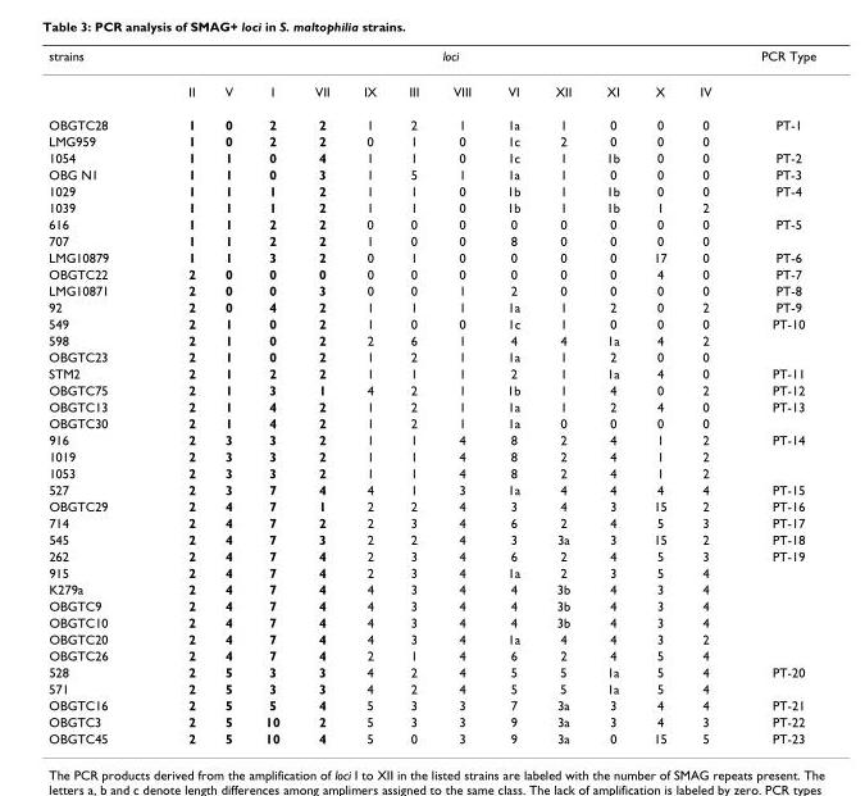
<table><thead><tr><td rowspan="2">strains</td><td colspan="12">loci</td><td rowspan="2">PCR Type</td></tr><tr><td>II</td><td>V</td><td>I</td><td>VII</td><td>IX</td><td>III</td><td>VIII</td><td>VI</td><td>XII</td><td>XI</td><td>X</td><td>IV</td></tr></thead><tbody><tr><td>OBGTC28</td><td>1</td><td>0</td><td>2</td><td>2</td><td>1</td><td>2</td><td>1</td><td>1a</td><td>1</td><td>0</td><td>0</td><td>0</td><td>PT-1</td></tr><tr><td>LMG959</td><td>1</td><td>0</td><td>2</td><td>2</td><td>0</td><td>1</td><td>0</td><td>1c</td><td>2</td><td>0</td><td>0</td><td>0</td><td></td></tr><tr><td>1054</td><td>1</td><td>1</td><td>0</td><td>4</td><td>1</td><td>1</td><td>0</td><td>1c</td><td>1</td><td>1b</td><td>0</td><td>0</td><td>PT-2</td></tr><tr><td>OBG N1</td><td>1</td><td>1</td><td>0</td><td>3</td><td>1</td><td>5</td><td>1</td><td>1a</td><td>1</td><td>0</td><td>0</td><td>0</td><td>PT-3</td></tr><tr><td>1029</td><td>1</td><td>1</td><td>1</td><td>2</td><td>1</td><td>1</td><td>0</td><td>1b</td><td>1</td><td>1b</td><td>0</td><td>0</td><td>PT-4</td></tr><tr><td>1039</td><td>1</td><td>1</td><td>1</td><td>2</td><td>1</td><td>1</td><td>0</td><td>1b</td><td>1</td><td>1b</td><td>1</td><td>2</td><td></td></tr><tr><td>616</td><td>1</td><td>1</td><td>2</td><td>2</td><td>0</td><td>0</td><td>0</td><td>0</td><td>0</td><td>0</td><td>0</td><td>0</td><td>PT-5</td></tr><tr><td>707</td><td>1</td><td>1</td><td>2</td><td>2</td><td>1</td><td>0</td><td>0</td><td>8</td><td>0</td><td>0</td><td>0</td><td>0</td><td></td></tr><tr><td>LMG10879</td><td>1</td><td>1</td><td>3</td><td>2</td><td>0</td><td>1</td><td>0</td><td>0</td><td>0</td><td>0</td><td>17</td><td>0</td><td>PT-6</td></tr><tr><td>OBGTC22</td><td>2</td><td>0</td><td>0</td><td>0</td><td>0</td><td>0</td><td>0</td><td>0</td><td>0</td><td>0</td><td>4</td><td>0</td><td>PT-7</td></tr><tr><td>LMG10871</td><td>2</td><td>0</td><td>0</td><td>3</td><td>0</td><td>0</td><td>1</td><td>2</td><td>0</td><td>0</td><td>0</td><td>0</td><td>PT-8</td></tr><tr><td>92</td><td>2</td><td>0</td><td>4</td><td>2</td><td>1</td><td>1</td><td>1</td><td>1a</td><td>1</td><td>2</td><td>0</td><td>2</td><td>PT-9</td></tr><tr><td>549</td><td>2</td><td>1</td><td>0</td><td>2</td><td>1</td><td>0</td><td>0</td><td>1c</td><td>1</td><td>0</td><td>0</td><td>0</td><td>PT-10</td></tr><tr><td>598</td><td>2</td><td>1</td><td>0</td><td>2</td><td>2</td><td>6</td><td>1</td><td>4</td><td>4</td><td>1a</td><td>4</td><td>2</td><td></td></tr><tr><td>OBGTC23</td><td>2</td><td>1</td><td>0</td><td>2</td><td>1</td><td>2</td><td>1</td><td>1a</td><td>1</td><td>2</td><td>0</td><td>0</td><td></td></tr><tr><td>STM2</td><td>2</td><td>1</td><td>2</td><td>2</td><td>1</td><td>1</td><td>1</td><td>2</td><td>1</td><td>1a</td><td>4</td><td>0</td><td>PT-11</td></tr><tr><td>OBGTC75</td><td>2</td><td>1</td><td>3</td><td>1</td><td>4</td><td>2</td><td>1</td><td>1b</td><td>1</td><td>4</td><td>0</td><td>2</td><td>PT-12</td></tr><tr><td>OBGTC13</td><td>2</td><td>1</td><td>4</td><td>2</td><td>1</td><td>2</td><td>1</td><td>1a</td><td>1</td><td>2</td><td>4</td><td>0</td><td>PT-13</td></tr><tr><td>OBGTC30</td><td>2</td><td>1</td><td>4</td><td>2</td><td>1</td><td>2</td><td>1</td><td>1a</td><td>0</td><td>0</td><td>0</td><td>0</td><td></td></tr><tr><td>916</td><td>2</td><td>3</td><td>3</td><td>2</td><td>1</td><td>1</td><td>4</td><td>8</td><td>2</td><td>4</td><td>1</td><td>2</td><td>PT-14</td></tr><tr><td>1019</td><td>2</td><td>3</td><td>3</td><td>2</td><td>1</td><td>1</td><td>4</td><td>8</td><td>2</td><td>4</td><td>1</td><td>2</td><td></td></tr><tr><td>1053</td><td>2</td><td>3</td><td>3</td><td>2</td><td>1</td><td>1</td><td>4</td><td>8</td><td>2</td><td>4</td><td>1</td><td>2</td><td></td></tr><tr><td>527</td><td>2</td><td>3</td><td>7</td><td>4</td><td>4</td><td>1</td><td>3</td><td>1a</td><td>4</td><td>4</td><td>4</td><td>4</td><td>PT-15</td></tr><tr><td>OBGTC29</td><td>2</td><td>4</td><td>7</td><td>1</td><td>2</td><td>2</td><td>4</td><td>3</td><td>4</td><td>3</td><td>15</td><td>2</td><td>PT-16</td></tr><tr><td>714</td><td>2</td><td>4</td><td>7</td><td>2</td><td>2</td><td>3</td><td>4</td><td>6</td><td>2</td><td>4</td><td>5</td><td>3</td><td>PT-17</td></tr><tr><td>545</td><td>2</td><td>4</td><td>7</td><td>3</td><td>2</td><td>2</td><td>4</td><td>3</td><td>3a</td><td>3</td><td>15</td><td>2</td><td>PT-18</td></tr><tr><td>262</td><td>2</td><td>4</td><td>7</td><td>4</td><td>2</td><td>3</td><td>4</td><td>6</td><td>2</td><td>4</td><td>5</td><td>3</td><td>PT-19</td></tr><tr><td>915</td><td>2</td><td>4</td><td>7</td><td>4</td><td>2</td><td>3</td><td>4</td><td>1a</td><td>2</td><td>3</td><td>5</td><td>4</td><td></td></tr><tr><td>K279a</td><td>2</td><td>4</td><td>7</td><td>4</td><td>4</td><td>3</td><td>4</td><td>4</td><td>3b</td><td>4</td><td>3</td><td>4</td><td></td></tr><tr><td>OBGTC9</td><td>2</td><td>4</td><td>7</td><td>4</td><td>4</td><td>3</td><td>4</td><td>4</td><td>3b</td><td>4</td><td>3</td><td>4</td><td></td></tr><tr><td>OBGTC10</td><td>2</td><td>4</td><td>7</td><td>4</td><td>4</td><td>3</td><td>4</td><td>4</td><td>3b</td><td>4</td><td>3</td><td>4</td><td></td></tr><tr><td>OBGTC20</td><td>2</td><td>4</td><td>7</td><td>4</td><td>4</td><td>3</td><td>4</td><td>1a</td><td>4</td><td>4</td><td>3</td><td>2</td><td></td></tr><tr><td>OBGTC26</td><td>2</td><td>4</td><td>7</td><td>4</td><td>2</td><td>1</td><td>4</td><td>6</td><td>2</td><td>4</td><td>5</td><td>4</td><td></td></tr><tr><td>528</td><td>2</td><td>5</td><td>3</td><td>3</td><td>4</td><td>2</td><td>4</td><td>5</td><td>5</td><td>1a</td><td>5</td><td>4</td><td>PT-20</td></tr><tr><td>571</td><td>2</td><td>5</td><td>3</td><td>3</td><td>4</td><td>2</td><td>4</td><td>5</td><td>5</td><td>1a</td><td>5</td><td>4</td><td></td></tr><tr><td>OBGTC16</td><td>2</td><td>5</td><td>5</td><td>4</td><td>5</td><td>3</td><td>3</td><td>7</td><td>3a</td><td>3</td><td>4</td><td>4</td><td>PT-21</td></tr><tr><td>OBGTC3</td><td>2</td><td>5</td><td>10</td><td>2</td><td>5</td><td>3</td><td>3</td><td>9</td><td>3a</td><td>3</td><td>4</td><td>3</td><td>PT-22</td></tr><tr><td>OBGTC45</td><td>2</td><td>5</td><td>10</td><td>4</td><td>5</td><td>0</td><td>3</td><td>9</td><td>3a</td><td>0</td><td>15</td><td>5</td><td>PT-23</td></tr></tbody></table>